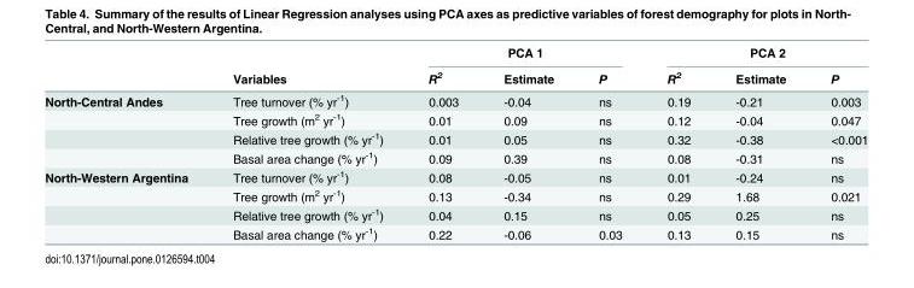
<table><thead><tr><td rowspan="2"></td><td rowspan="2">Variables</td><td colspan="3">PCA 1</td><td colspan="3">PCA 2</td></tr><tr><td>R<sup>2</sup></td><td>Estimate</td><td>P</td><td>R<sup>2</sup></td><td>Estimate</td><td>P</td></tr></thead><tbody><tr><td rowspan="4">North-Central Andes</td><td>Tree turnover (% yr<sup>-1</sup>)</td><td>0.003</td><td>-0.04</td><td>ns</td><td>0.19</td><td>-0.21</td><td>0.003</td></tr><tr><td>Tree growth (m<sup>2</sup> yr<sup>-1</sup>)</td><td>0.01</td><td>0.09</td><td>ns</td><td>0.12</td><td>-0.04</td><td>0.047</td></tr><tr><td>Relative tree growth (% yr<sup>-1</sup>)</td><td>0.01</td><td>0.05</td><td>ns</td><td>0.32</td><td>-0.38</td><td>&lt;0.001</td></tr><tr><td>Basal area change (% yr<sup>-1</sup>)</td><td>0.09</td><td>0.39</td><td>ns</td><td>0.08</td><td>-0.31</td><td>ns</td></tr><tr><td rowspan="4">North-Western Argentina</td><td>Tree turnover (% yr<sup>-1</sup>)</td><td>0.08</td><td>-0.05</td><td>ns</td><td>0.01</td><td>-0.24</td><td>ns</td></tr><tr><td>Tree growth (m<sup>2</sup> yr<sup>-1</sup>)</td><td>0.13</td><td>-0.34</td><td>ns</td><td>0.29</td><td>1.68</td><td>0.021</td></tr><tr><td>Relative tree growth (% yr<sup>-1</sup>)</td><td>0.04</td><td>0.15</td><td>ns</td><td>0.05</td><td>0.25</td><td>ns</td></tr><tr><td>Basal area change (% yr<sup>-1</sup>)</td><td>0.22</td><td>-0.06</td><td>0.03</td><td>0.13</td><td>0.15</td><td>ns</td></tr></tbody></table>